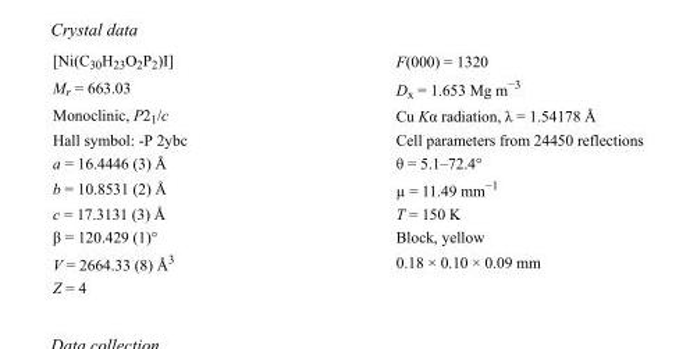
<table><tbody><tr><td>[Ni(C<sub>30</sub>H<sub>23</sub>O<sub>2</sub>P<sub>2</sub>)I]</td><td>F(000) = 1320</td></tr><tr><td>M<sub>r</sub> = 663.03</td><td>D<sub>x</sub> = 1.653 Mg m<sup>−3</sup></td></tr><tr><td>Monoclinic, P2<sub>1</sub>/c</td><td>Cu Kα radiation, λ = 1.54178 Å</td></tr><tr><td>Hall symbol: -P 2ybc</td><td>Cell parameters from 24450 reflections</td></tr><tr><td>a = 16.4446 (3) Å</td><td>θ = 5.1–72.4°</td></tr><tr><td>b = 10.8531 (2) Å</td><td>µ = 11.49 mm<sup>−1</sup></td></tr><tr><td>c = 17.3131 (3) Å</td><td>T = 150 K</td></tr><tr><td>β = 120.429 (1)°</td><td>Block, yellow</td></tr><tr><td>V = 2664.33 (8) Å<sup>3</sup></td><td>0.18 × 0.10 × 0.09 mm</td></tr><tr><td>Z = 4</td><td></td></tr></tbody></table>